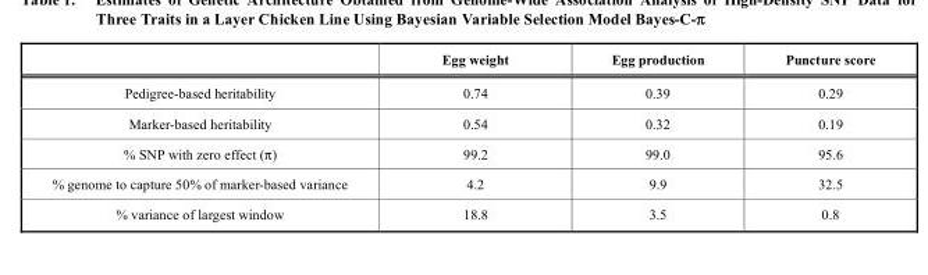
<table><thead><tr><td></td><td>Egg weight</td><td>Egg production</td><td>Puncture score</td></tr></thead><tbody><tr><td>Pedigree-based heritability</td><td>0.74</td><td>0.39</td><td>0.29</td></tr><tr><td>Marker-based heritability</td><td>0.54</td><td>0.32</td><td>0.19</td></tr><tr><td>% SNP with zero effect (π)</td><td>99.2</td><td>99.0</td><td>95.6</td></tr><tr><td>% genome to capture 50% of marker-based variance</td><td>4.2</td><td>9.9</td><td>32.5</td></tr><tr><td>% variance of largest window</td><td>18.8</td><td>3.5</td><td>0.8</td></tr></tbody></table>